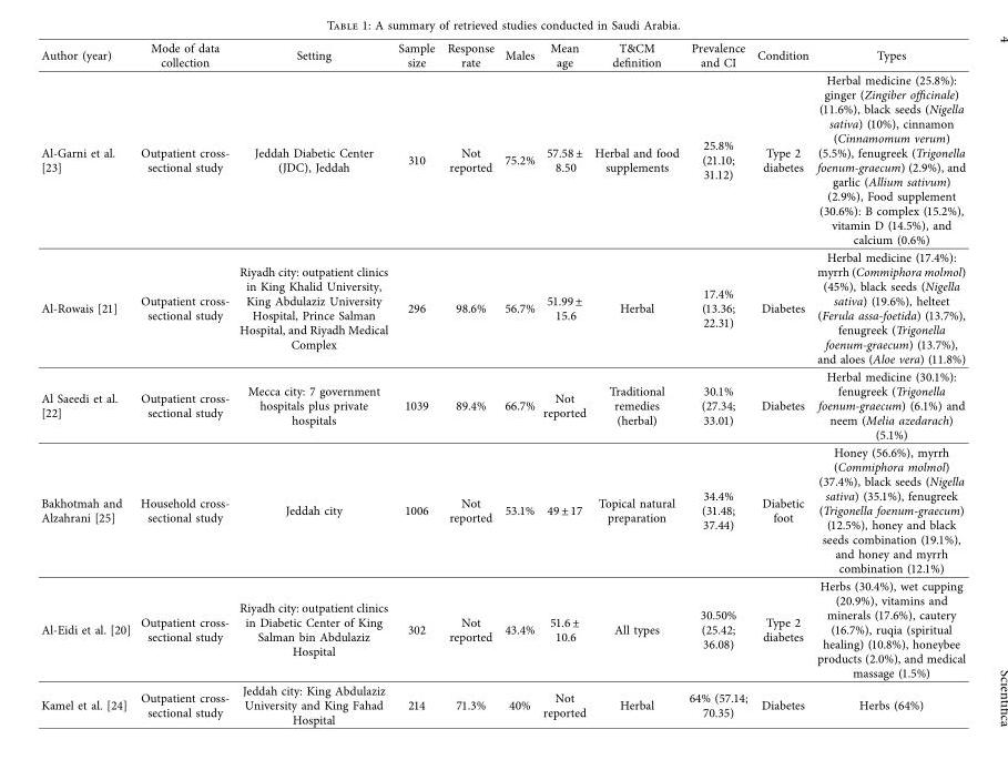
<table><thead><tr><td>Author (year)</td><td>Mode of data collection</td><td>Setting</td><td>Sample size</td><td>Response rate</td><td>Males</td><td>Mean age</td><td>T&amp;CM definition</td><td>Prevalence and CI</td><td>Condition</td><td>Types</td></tr></thead><tbody><tr><td>Al-Garni et al. [23]</td><td>Outpatient cross- sectional study</td><td>Jeddah Diabetic Center (JDC), Jeddah</td><td>310</td><td>Not reported</td><td>75.2%</td><td>57.58 ± 8.50</td><td>Herbal and food supplements</td><td>25.8% (21.10; 31.12)</td><td>Type 2 diabetes</td><td>Herbal medicine (25.8%): ginger (Zingiber officinale) (11.6%), black seeds (Nigella sativa) (10%), cinnamon (Cinnamomum verum) (5.5%), fenugreek (Trigonella foenum-graecum) (2.9%), and garlic (Allium sativum) (2.9%), Food supplement (30.6%): B complex (15.2%), vitamin D (14.5%), and calcium (0.6%)</td></tr><tr><td>Al-Rowais [21]</td><td>Outpatient cross- sectional study</td><td>Riyadh city: outpatient clinics in King Khalid University, King Abdulaziz University Hospital, Prince Salman Hospital, and Riyadh Medical Complex</td><td>296</td><td>98.6%</td><td>56.7%</td><td>51.99 ± 15.6</td><td>Herbal</td><td>17.4% (13.36; 22.31)</td><td>Diabetes</td><td>Herbal medicine (17.4%): myrrh (Commiphora molmol) (45%), black seeds (Nigella sativa) (19.6%), helteet (Ferula assa-foetida) (13.7%), fenugreek (Trigonella foenum-graecum) (13.7%), and aloes (Aloe vera) (11.8%)</td></tr><tr><td>Al Saeedi et al. [22]</td><td>Outpatient cross- sectional study</td><td>Mecca city: 7 government hospitals plus private hospitals</td><td>1039</td><td>89.4%</td><td>66.7%</td><td>Not reported</td><td>Traditional remedies (herbal)</td><td>30.1% (27.34; 33.01)</td><td>Diabetes</td><td>Herbal medicine (30.1%): fenugreek (Trigonella foenum-graecum) (6.1%) and neem (Melia azedarach) (5.1%)</td></tr><tr><td>Bakhotmah and Alzahrani [25]</td><td>Household cross- sectional study</td><td>Jeddah city</td><td>1006</td><td>Not reported</td><td>53.1%</td><td>49 ± 17</td><td>Topical natural preparation</td><td>34.4% (31.48; 37.44)</td><td>Diabetic foot</td><td>Honey (56.6%), myrrh (Commiphora molmol) (37.4%), black seeds (Nigella sativa) (35.1%), fenugreek (Trigonella foenum-graecum) (12.5%), honey and black seeds combination (19.1%), and honey and myrrh combination (12.1%)</td></tr><tr><td>Al-Eidi et al. [20]</td><td>Outpatient cross- sectional study</td><td>Riyadh city: outpatient clinics in Diabetic Center of King Salman bin Abdulaziz Hospital</td><td>302</td><td>Not reported</td><td>43.4%</td><td>51.6 ± 10.6</td><td>All types</td><td>30.50% (25.42; 36.08)</td><td>Type 2 diabetes</td><td>Herbs (30.4%), wet cupping (20.9%), vitamins and minerals (17.6%), cautery (16.7%), ruqia (spiritual healing) (10.8%), honeybee products (2.0%), and medical massage (1.5%)</td></tr><tr><td>Kamel et al. [24]</td><td>Outpatient cross- sectional study</td><td>Jeddah city: King Abdulaziz University and King Fahad Hospital</td><td>214</td><td>71.3%</td><td>40%</td><td>Not reported</td><td>Herbal</td><td>64% (57.14; 70.35)</td><td>Diabetes</td><td>Herbs (64%)</td></tr></tbody></table>